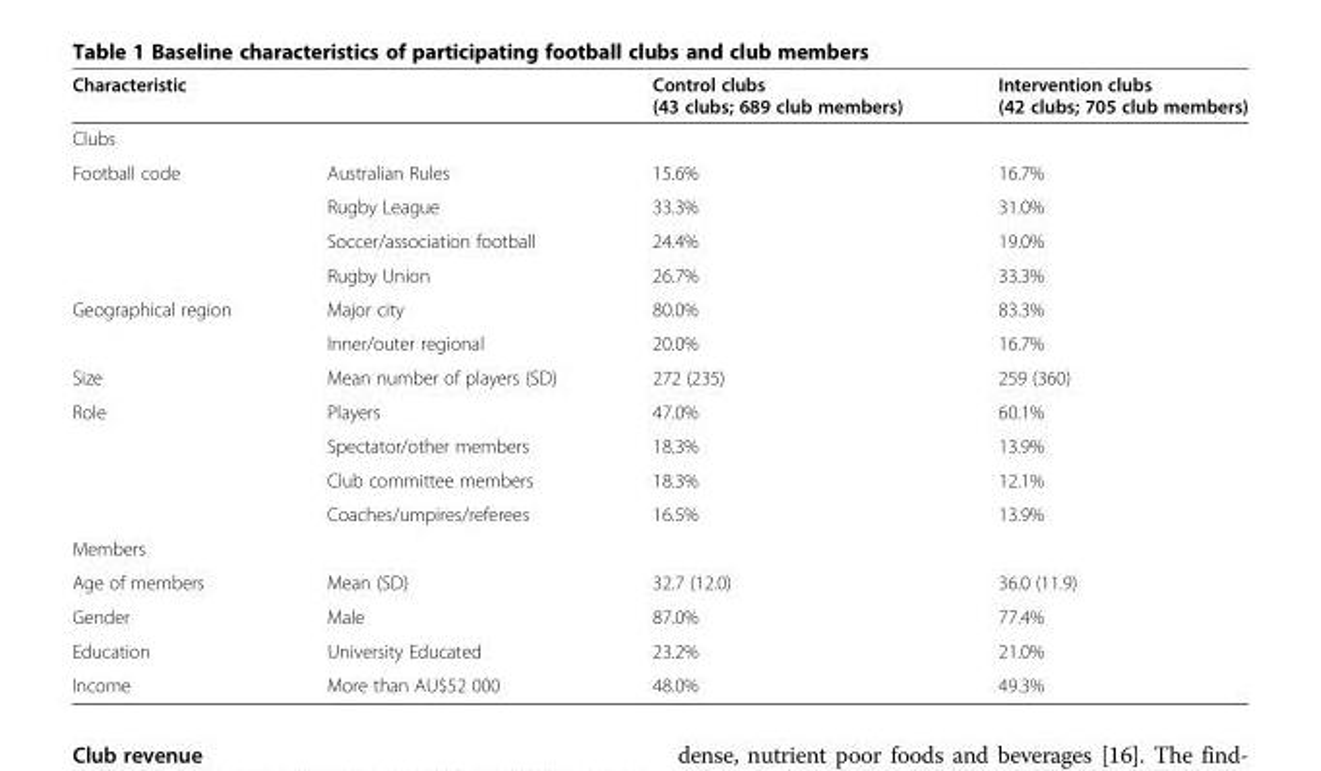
<table><thead><tr><td colspan="2">Characteristic</td><td rowspan="2">Control clubs (43 clubs; 689 club members)</td><td rowspan="2">Intervention clubs (42 clubs; 705 club members)</td></tr><tr><td>Clubs</td><td></td></tr></thead><tbody><tr><td rowspan="4">Football code</td><td>Australian Rules</td><td>15.6%</td><td>16.7%</td></tr><tr><td>Rugby League</td><td>33.3%</td><td>31.0%</td></tr><tr><td>Soccer/association football</td><td>24.4%</td><td>19.0%</td></tr><tr><td>Rugby Union</td><td>26.7%</td><td>33.3%</td></tr><tr><td rowspan="2">Geographical region</td><td>Major city</td><td>80.0%</td><td>83.3%</td></tr><tr><td>Inner/outer regional</td><td>20.0%</td><td>16.7%</td></tr><tr><td>Size</td><td>Mean number of players (SD)</td><td>272 (235)</td><td>259 (360)</td></tr><tr><td rowspan="4">Role</td><td>Players</td><td>47.0%</td><td>60.1%</td></tr><tr><td>Spectator/other members</td><td>18.3%</td><td>13.9%</td></tr><tr><td>Club committee members</td><td>18.3%</td><td>12.1%</td></tr><tr><td>Coaches/umpires/referees</td><td>16.5%</td><td>13.9%</td></tr><tr><td colspan="4">Members</td></tr><tr><td>Age of members</td><td>Mean (SD)</td><td>32.7 (12.0)</td><td>36.0 (11.9)</td></tr><tr><td>Gender</td><td>Male</td><td>87.0%</td><td>77.4%</td></tr><tr><td>Education</td><td>University Educated</td><td>23.2%</td><td>21.0%</td></tr><tr><td>Income</td><td>More than AU$52 000</td><td>48.0%</td><td>49.3%</td></tr></tbody></table>